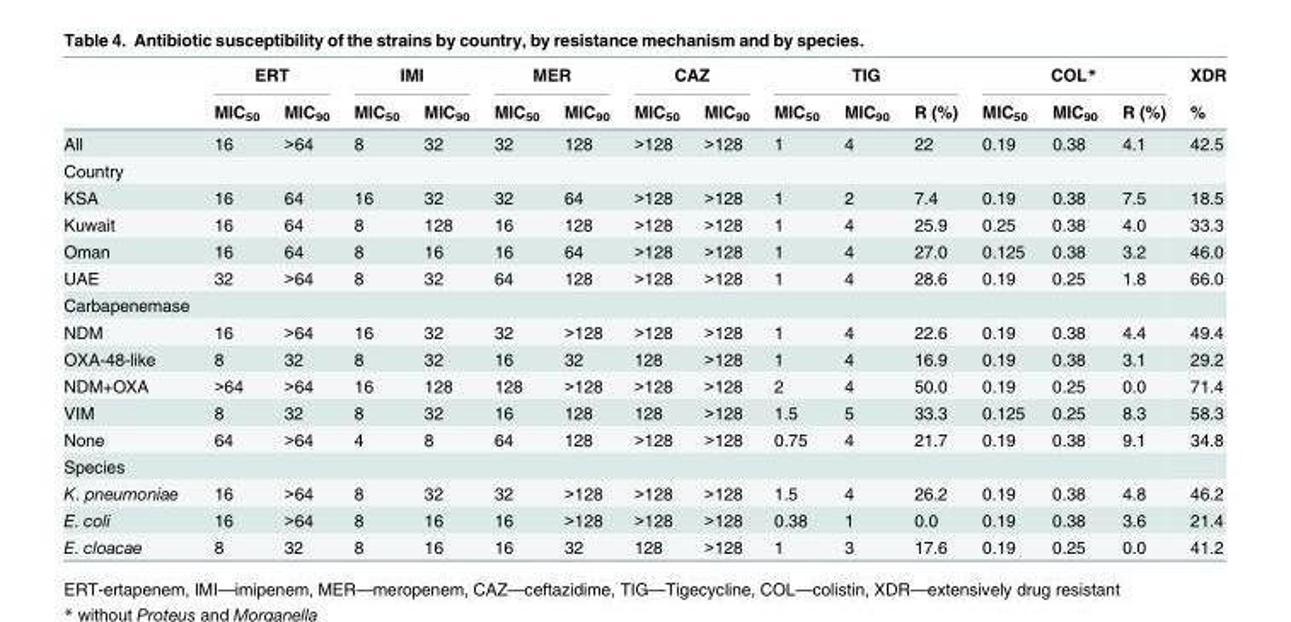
<table><thead><tr><td rowspan="2"></td><td colspan="2">ERT</td><td colspan="2">IMI</td><td colspan="2">MER</td><td colspan="2">CAZ</td><td colspan="3">TIG</td><td colspan="3">COL*</td><td rowspan="2">XDR %</td></tr><tr><td>MIC<sub>50</sub></td><td>MIC<sub>90</sub></td><td>MIC<sub>50</sub></td><td>MIC<sub>90</sub></td><td>MIC<sub>50</sub></td><td>MIC<sub>90</sub></td><td>MIC<sub>50</sub></td><td>MIC<sub>90</sub></td><td>MIC<sub>50</sub></td><td>MIC<sub>90</sub></td><td>R (%)</td><td>MIC<sub>50</sub></td><td>MIC<sub>90</sub></td><td>R (%)</td></tr></thead><tbody><tr><td>All</td><td>16</td><td>&gt;64</td><td>8</td><td>32</td><td>32</td><td>128</td><td>&gt;128</td><td>&gt;128</td><td>1</td><td>4</td><td>22</td><td>0.19</td><td>0.38</td><td>4.1</td><td>42.5</td></tr><tr><td colspan="16">Country</td></tr><tr><td>KSA</td><td>16</td><td>64</td><td>16</td><td>32</td><td>32</td><td>64</td><td>&gt;128</td><td>&gt;128</td><td>1</td><td>2</td><td>7.4</td><td>0.19</td><td>0.38</td><td>7.5</td><td>18.5</td></tr><tr><td>Kuwait</td><td>16</td><td>64</td><td>8</td><td>128</td><td>16</td><td>128</td><td>&gt;128</td><td>&gt;128</td><td>1</td><td>4</td><td>25.9</td><td>0.25</td><td>0.38</td><td>4.0</td><td>33.3</td></tr><tr><td>Oman</td><td>16</td><td>64</td><td>8</td><td>16</td><td>16</td><td>64</td><td>&gt;128</td><td>&gt;128</td><td>1</td><td>4</td><td>27.0</td><td>0.125</td><td>0.38</td><td>3.2</td><td>46.0</td></tr><tr><td>UAE</td><td>32</td><td>&gt;64</td><td>8</td><td>32</td><td>64</td><td>128</td><td>&gt;128</td><td>&gt;128</td><td>1</td><td>4</td><td>28.6</td><td>0.19</td><td>0.25</td><td>1.8</td><td>66.0</td></tr><tr><td colspan="16">Carbapenemase</td></tr><tr><td>NDM</td><td>16</td><td>&gt;64</td><td>16</td><td>32</td><td>32</td><td>&gt;128</td><td>&gt;128</td><td>&gt;128</td><td>1</td><td>4</td><td>22.6</td><td>0.19</td><td>0.38</td><td>4.4</td><td>49.4</td></tr><tr><td>OXA-48-like</td><td>8</td><td>32</td><td>8</td><td>32</td><td>16</td><td>32</td><td>128</td><td>&gt;128</td><td>1</td><td>4</td><td>16.9</td><td>0.19</td><td>0.38</td><td>3.1</td><td>29.2</td></tr><tr><td>NDM+OXA</td><td>&gt;64</td><td>&gt;64</td><td>16</td><td>128</td><td>128</td><td>&gt;128</td><td>&gt;128</td><td>&gt;128</td><td>2</td><td>4</td><td>50.0</td><td>0.19</td><td>0.25</td><td>0.0</td><td>71.4</td></tr><tr><td>VIM</td><td>8</td><td>32</td><td>8</td><td>32</td><td>16</td><td>128</td><td>128</td><td>&gt;128</td><td>1.5</td><td>5</td><td>33.3</td><td>0.125</td><td>0.25</td><td>8.3</td><td>58.3</td></tr><tr><td>None</td><td>64</td><td>&gt;64</td><td>4</td><td>8</td><td>64</td><td>128</td><td>&gt;128</td><td>&gt;128</td><td>0.75</td><td>4</td><td>21.7</td><td>0.19</td><td>0.38</td><td>9.1</td><td>34.8</td></tr><tr><td colspan="16">Species</td></tr><tr><td>K. pneumoniae</td><td>16</td><td>&gt;64</td><td>8</td><td>32</td><td>32</td><td>&gt;128</td><td>&gt;128</td><td>&gt;128</td><td>1.5</td><td>4</td><td>26.2</td><td>0.19</td><td>0.38</td><td>4.8</td><td>46.2</td></tr><tr><td>E. coli</td><td>16</td><td>&gt;64</td><td>8</td><td>16</td><td>16</td><td>&gt;128</td><td>&gt;128</td><td>&gt;128</td><td>0.38</td><td>1</td><td>0.0</td><td>0.19</td><td>0.38</td><td>3.6</td><td>21.4</td></tr><tr><td>E. cloacae</td><td>8</td><td>32</td><td>8</td><td>16</td><td>16</td><td>32</td><td>128</td><td>&gt;128</td><td>1</td><td>3</td><td>17.6</td><td>0.19</td><td>0.25</td><td>0.0</td><td>41.2</td></tr></tbody></table>